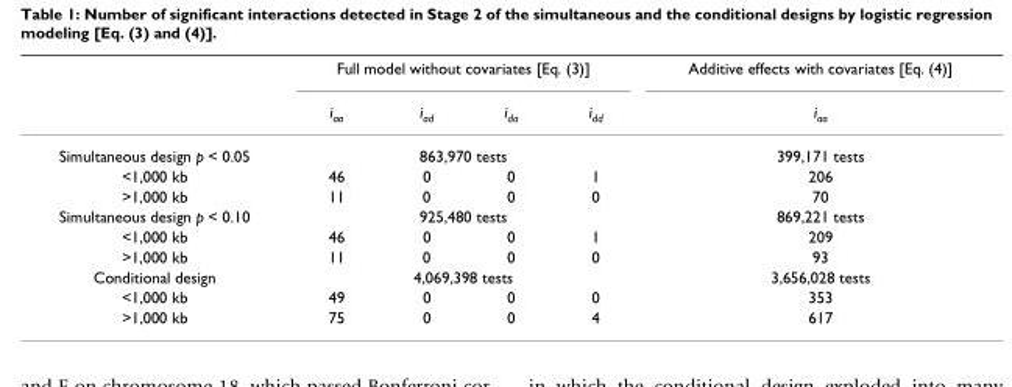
<table><thead><tr><td rowspan="2"></td><td colspan="4">Full model without covariates [Eq. (3)]</td><td rowspan="2">Additive effects with covariates [Eq. (4)] i<sub>aa</sub></td></tr><tr><td>i<sub>aa</sub></td><td>i<sub>ad</sub></td><td>i<sub>da</sub></td><td>i<sub>dd</sub></td></tr></thead><tbody><tr><td>Simultaneous design p &lt; 0.05</td><td colspan="4">863,970 tests</td><td>399,171 tests</td></tr><tr><td>&lt;1,000 kb</td><td>46</td><td>0</td><td>0</td><td>1</td><td>206</td></tr><tr><td>&gt;1,000 kb</td><td>11</td><td>0</td><td>0</td><td>0</td><td>70</td></tr><tr><td>Simultaneous design p &lt; 0.10</td><td colspan="4">925,480 tests</td><td>869,221 tests</td></tr><tr><td>&lt;1,000 kb</td><td>46</td><td>0</td><td>0</td><td>1</td><td>209</td></tr><tr><td>&gt;1,000 kb</td><td>11</td><td>0</td><td>0</td><td>0</td><td>93</td></tr><tr><td>Conditional design</td><td colspan="4">4,069,398 tests</td><td>3,656,028 tests</td></tr><tr><td>&lt;1,000 kb</td><td>49</td><td>0</td><td>0</td><td>0</td><td>353</td></tr><tr><td>&gt;1,000 kb</td><td>75</td><td>0</td><td>0</td><td>4</td><td>617</td></tr></tbody></table>